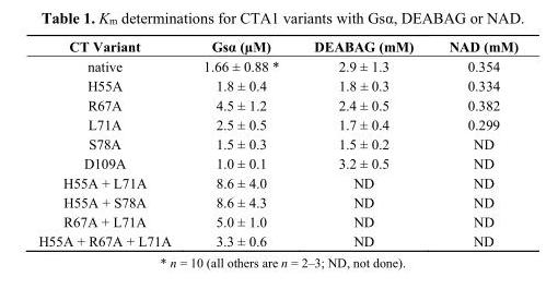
<table><thead><tr><td>CT Variant</td><td>Gsα (µM)</td><td>DEABAG (mM)</td><td>NAD (mM)</td></tr></thead><tbody><tr><td>native</td><td>1.66 ± 0.88 *</td><td>2.9 ± 1.3</td><td>0.354</td></tr><tr><td>H55A</td><td>1.8 ± 0.4</td><td>1.8 ± 0.3</td><td>0.334</td></tr><tr><td>R67A</td><td>4.5 ± 1.2</td><td>2.4 ± 0.5</td><td>0.382</td></tr><tr><td>L71A</td><td>2.5 ± 0.5</td><td>1.7 ± 0.4</td><td>0.299</td></tr><tr><td>S78A</td><td>1.5 ± 0.3</td><td>1.5 ± 0.2</td><td>ND</td></tr><tr><td>D109A</td><td>1.0 ± 0.1</td><td>3.2 ± 0.5</td><td>ND</td></tr><tr><td>H55A + L71A</td><td>8.6 ± 4.0</td><td>ND</td><td>ND</td></tr><tr><td>H55A + S78A</td><td>8.6 ± 4.3</td><td>ND</td><td>ND</td></tr><tr><td>R67A + L71A</td><td>5.0 ± 1.0</td><td>ND</td><td>ND</td></tr><tr><td>H55A + R67A + L71A</td><td>3.3 ± 0.6</td><td>ND</td><td>ND</td></tr></tbody></table>